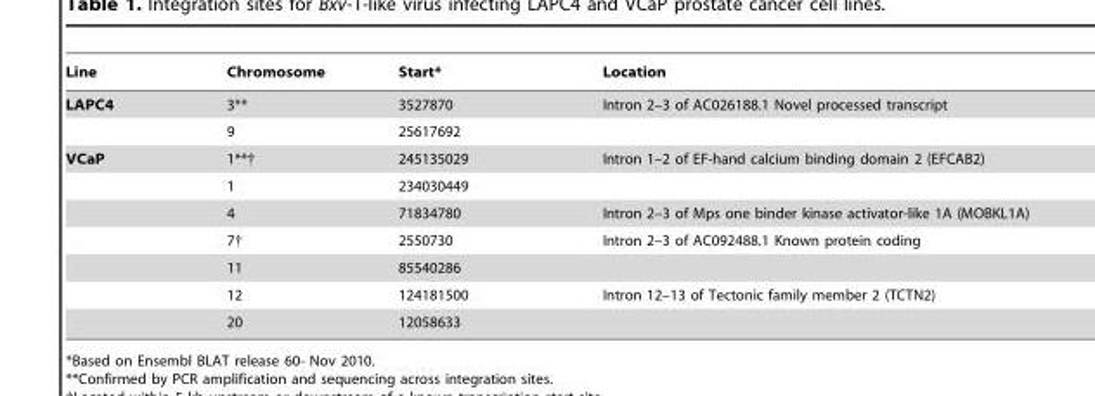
<table><thead><tr><td>Line</td><td>Chromosome</td><td>Start*</td><td>Location</td></tr></thead><tbody><tr><td rowspan="2">LAPC4</td><td>3**</td><td>3527870</td><td>Intron 2–3 of AC026188.1 Novel processed transcript</td></tr><tr><td>9</td><td>25617692</td><td></td></tr><tr><td rowspan="7">VCaP</td><td>1**†</td><td>245135029</td><td>Intron 1–2 of EF-hand calcium binding domain 2 (EFCAB2)</td></tr><tr><td>1</td><td>234030449</td><td></td></tr><tr><td>4</td><td>71834780</td><td>Intron 2–3 of Mps one binder kinase activator-like 1A (MOBKL1A)</td></tr><tr><td>7†</td><td>2550730</td><td>Intron 2–3 of AC092488.1 Known protein coding</td></tr><tr><td>11</td><td>85540286</td><td></td></tr><tr><td>12</td><td>124181500</td><td>Intron 12–13 of Tectonic family member 2 (TCTN2)</td></tr><tr><td>20</td><td>12058633</td><td></td></tr></tbody></table>